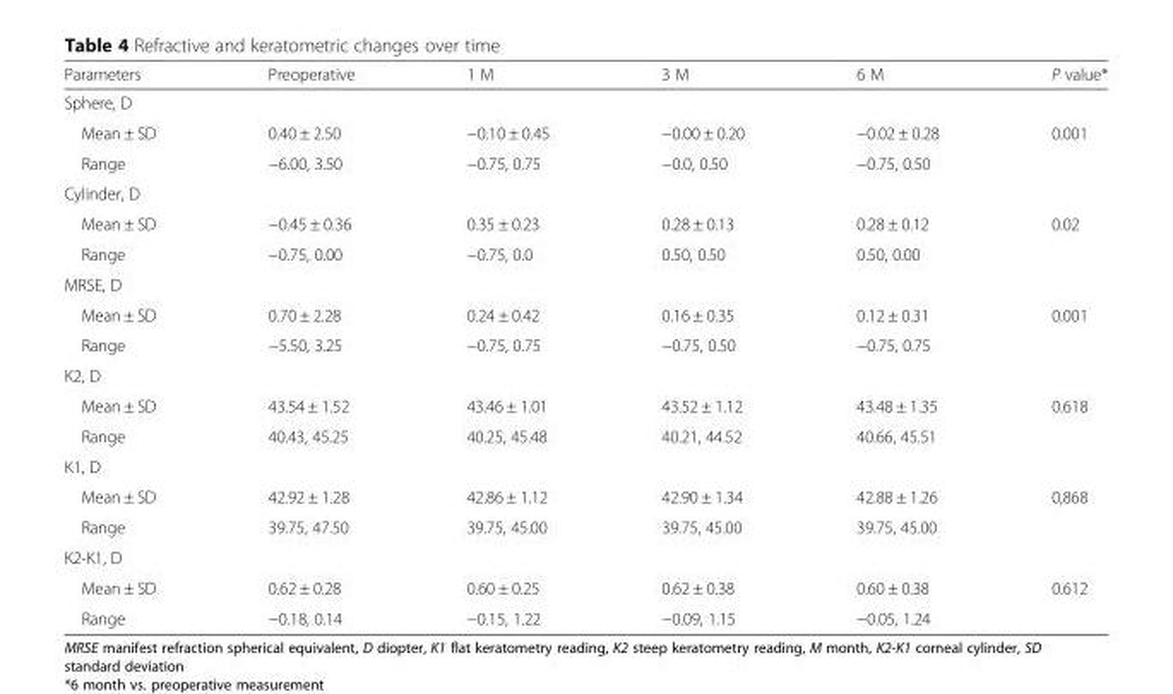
<table><thead><tr><td>Parameters</td><td>Preoperative</td><td>1 M</td><td>3 M</td><td>6 M</td><td>P value*</td></tr></thead><tbody><tr><td colspan="6">Sphere, D</td></tr><tr><td>Mean ± SD</td><td>0.40 ± 2.50</td><td>−0.10 ± 0.45</td><td>−0.00 ± 0.20</td><td>−0.02 ± 0.28</td><td>0.001</td></tr><tr><td>Range</td><td>−6.00, 3.50</td><td>−0.75, 0.75</td><td>−0.0, 0.50</td><td>−0.75, 0.50</td><td></td></tr><tr><td colspan="6">Cylinder, D</td></tr><tr><td>Mean ± SD</td><td>−0.45 ± 0.36</td><td>0.35 ± 0.23</td><td>0.28 ± 0.13</td><td>0.28 ± 0.12</td><td>0.02</td></tr><tr><td>Range</td><td>−0.75, 0.00</td><td>−0.75, 0.0</td><td>0.50, 0.50</td><td>0.50, 0.00</td><td></td></tr><tr><td colspan="6">MRSE, D</td></tr><tr><td>Mean ± SD</td><td>0.70 ± 2.28</td><td>0.24 ± 0.42</td><td>0.16 ± 0.35</td><td>0.12 ± 0.31</td><td>0.001</td></tr><tr><td>Range</td><td>−5.50, 3.25</td><td>−0.75, 0.75</td><td>−0.75, 0.50</td><td>−0.75, 0.75</td><td></td></tr><tr><td colspan="6">K2, D</td></tr><tr><td>Mean ± SD</td><td>43.54 ± 1.52</td><td>43.46 ± 1.01</td><td>43.52 ± 1.12</td><td>43.48 ± 1.35</td><td>0.618</td></tr><tr><td>Range</td><td>40.43, 45.25</td><td>40.25, 45.48</td><td>40.21, 44.52</td><td>40.66, 45.51</td><td></td></tr><tr><td colspan="6">K1, D</td></tr><tr><td>Mean ± SD</td><td>42.92 ± 1.28</td><td>42.86 ± 1.12</td><td>42.90 ± 1.34</td><td>42.88 ± 1.26</td><td>0,868</td></tr><tr><td>Range</td><td>39.75, 47.50</td><td>39.75, 45.00</td><td>39.75, 45.00</td><td>39.75, 45.00</td><td></td></tr><tr><td colspan="6">K2-K1, D</td></tr><tr><td>Mean ± SD</td><td>0.62 ± 0.28</td><td>0.60 ± 0.25</td><td>0.62 ± 0.38</td><td>0.60 ± 0.38</td><td>0.612</td></tr><tr><td>Range</td><td>−0.18, 0.14</td><td>−0.15, 1.22</td><td>−0.09, 1.15</td><td>−0.05, 1.24</td><td></td></tr></tbody></table>